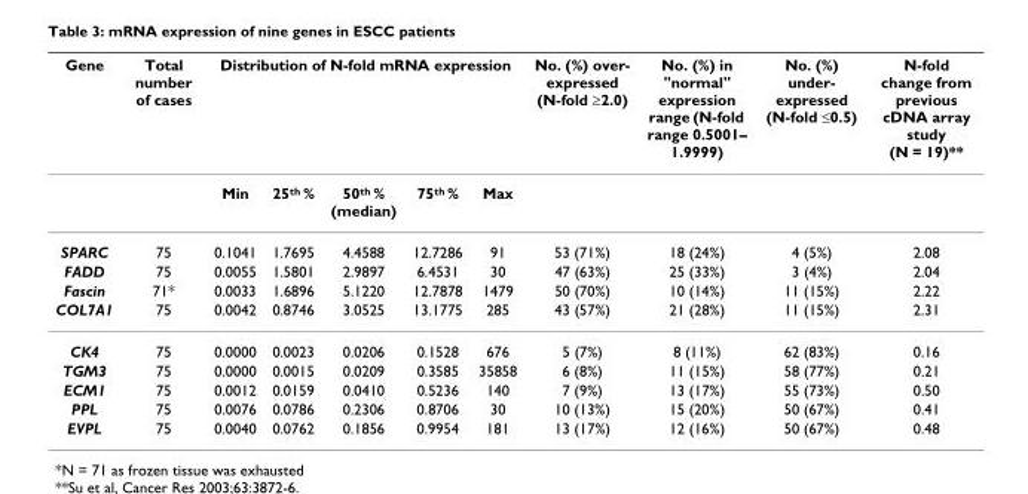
<table><thead><tr><td rowspan="2">Gene</td><td rowspan="2">Total number of cases</td><td colspan="5">Distribution of N-fold mRNA expression</td><td rowspan="2">No. (%) over- expressed (N-fold ≥2.0)</td><td rowspan="2">No. (%) in &quot;normal&quot; expression range (N-fold range 0.5001– 1.9999)</td><td rowspan="2">No. (%) under- expressed (N-fold ≤0.5)</td><td rowspan="2">N-fold change from previous cDNA array study (N = 19)**</td></tr><tr><td>Min</td><td>25th %</td><td>50th % (median)</td><td>75th %</td><td>Max</td></tr></thead><tbody><tr><td>SPARC</td><td>75</td><td>0.1041</td><td>1.7695</td><td>4.4588</td><td>12.7286</td><td>91</td><td>53 (71%)</td><td>18 (24%)</td><td>4 (5%)</td><td>2.08</td></tr><tr><td>FADD</td><td>75</td><td>0.0055</td><td>1.5801</td><td>2.9897</td><td>6.4531</td><td>30</td><td>47 (63%)</td><td>25 (33%)</td><td>3 (4%)</td><td>2.04</td></tr><tr><td>Fascin</td><td>71*</td><td>0.0033</td><td>1.6896</td><td>5.1220</td><td>12.7878</td><td>1479</td><td>50 (70%)</td><td>10 (14%)</td><td>11 (15%)</td><td>2.22</td></tr><tr><td>COL7A1</td><td>75</td><td>0.0042</td><td>0.8746</td><td>3.0525</td><td>13.1775</td><td>285</td><td>43 (57%)</td><td>21 (28%)</td><td>11 (15%)</td><td>2.31</td></tr><tr><td>CK4</td><td>75</td><td>0.0000</td><td>0.0023</td><td>0.0206</td><td>0.1528</td><td>676</td><td>5 (7%)</td><td>8 (11%)</td><td>62 (83%)</td><td>0.16</td></tr><tr><td>TGM3</td><td>75</td><td>0.0000</td><td>0.0015</td><td>0.0209</td><td>0.3585</td><td>35858</td><td>6 (8%)</td><td>11 (15%)</td><td>58 (77%)</td><td>0.21</td></tr><tr><td>ECM1</td><td>75</td><td>0.0012</td><td>0.0159</td><td>0.0410</td><td>0.5236</td><td>140</td><td>7 (9%)</td><td>13 (17%)</td><td>55 (73%)</td><td>0.50</td></tr><tr><td>PPL</td><td>75</td><td>0.0076</td><td>0.0786</td><td>0.2306</td><td>0.8706</td><td>30</td><td>10 (13%)</td><td>15 (20%)</td><td>50 (67%)</td><td>0.41</td></tr><tr><td>EVPL</td><td>75</td><td>0.0040</td><td>0.0762</td><td>0.1856</td><td>0.9954</td><td>181</td><td>13 (17%)</td><td>12 (16%)</td><td>50 (67%)</td><td>0.48</td></tr></tbody></table>